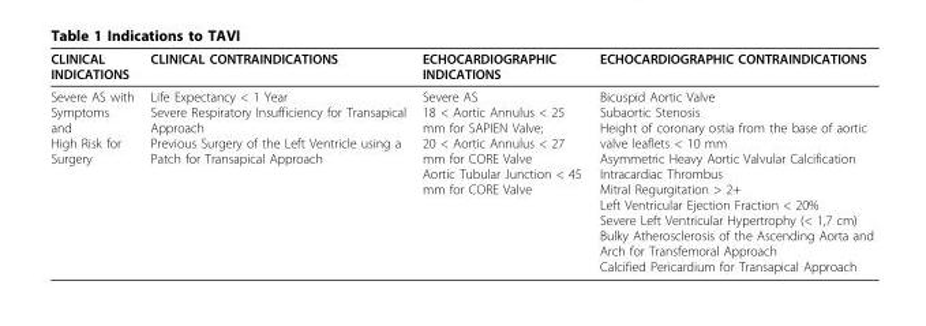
<table><thead><tr><td>CLINICAL INDICATIONS</td><td>CLINICAL CONTRAINDICATIONS</td><td>ECHOCARDIOGRAPHIC INDICATIONS</td><td>ECHOCARDIOGRAPHIC CONTRAINDICATIONS</td></tr></thead><tbody><tr><td>Severe AS with Symptoms and High Risk for Surgery</td><td>Life Expectancy &lt; 1 Year Severe Respiratory Insufficiency for Transapical Approach Previous Surgery of the Left Ventricle using a Patch for Transapical Approach</td><td>Severe AS 18 &lt; Aortic Annulus &lt; 25 mm for SAPIEN Valve; 20 &lt; Aortic Annulus &lt; 27 mm for CORE Valve Aortic Tubular Junction &lt; 45 mm for CORE Valve</td><td>Bicuspid Aortic Valve Subaortic Stenosis Height of coronary ostia from the base of aortic valve leaflets &lt; 10 mm Asymmetric Heavy Aortic Valvular Calcification Intracardiac Thrombus Mitral Regurgitation &gt; 2+ Left Ventricular Ejection Fraction &lt; 20% Severe Left Ventricular Hypertrophy (&lt; 1,7 cm) Bulky Atherosclerosis of the Ascending Aorta and Arch for Transfemoral Approach Calcified Pericardium for Transapical Approach</td></tr></tbody></table>